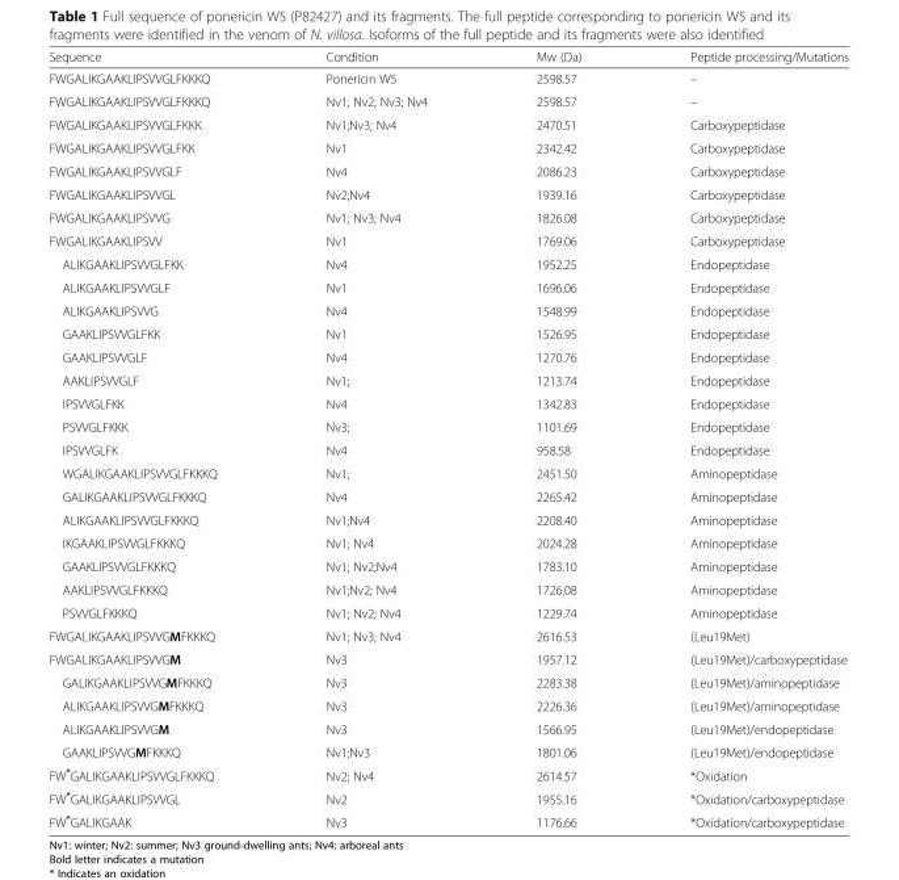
<table><thead><tr><td>Sequence</td><td>Condition</td><td>Mw (Da)</td><td>Peptide processing/Mutations</td></tr></thead><tbody><tr><td>FWGALIKGAAKLIPSVVGLFKKKQ</td><td>Ponericin W5</td><td>2598.57</td><td>–</td></tr><tr><td>FWGALIKGAAKLIPSVVGLFKKKQ</td><td>Nv1; Nv2; Nv3; Nv4</td><td>2598.57</td><td>–</td></tr><tr><td>FWGALIKGAAKLIPSVVGLFKKK</td><td>Nv1;Nv3; Nv4</td><td>2470.51</td><td>Carboxypeptidase</td></tr><tr><td>FWGALIKGAAKLIPSVVGLFKK</td><td>Nv1</td><td>2342.42</td><td>Carboxypeptidase</td></tr><tr><td>FWGALIKGAAKLIPSVVGLF</td><td>Nv4</td><td>2086.23</td><td>Carboxypeptidase</td></tr><tr><td>FWGALIKGAAKLIPSVVGL</td><td>Nv2;Nv4</td><td>1939.16</td><td>Carboxypeptidase</td></tr><tr><td>FWGALIKGAAKLIPSVVG</td><td>Nv1; Nv3; Nv4</td><td>1826.08</td><td>Carboxypeptidase</td></tr><tr><td>FWGALIKGAAKLIPSVV</td><td>Nv1</td><td>1769.06</td><td>Carboxypeptidase</td></tr><tr><td>ALIKGAAKLIPSVVGLFKK</td><td>Nv4</td><td>1952.25</td><td>Endopeptidase</td></tr><tr><td>ALIKGAAKLIPSVVGLF</td><td>Nv1</td><td>1696.06</td><td>Endopeptidase</td></tr><tr><td>ALIKGAAKLIPSVVG</td><td>Nv4</td><td>1548.99</td><td>Endopeptidase</td></tr><tr><td>GAAKLIPSVVGLFKK</td><td>Nv1</td><td>1526.95</td><td>Endopeptidase</td></tr><tr><td>GAAKLIPSVVGLF</td><td>Nv4</td><td>1270.76</td><td>Endopeptidase</td></tr><tr><td>AAKLIPSVVGLF</td><td>Nv1;</td><td>1213.74</td><td>Endopeptidase</td></tr><tr><td>IPSVVGLFKK</td><td>Nv4</td><td>1342.83</td><td>Endopeptidase</td></tr><tr><td>PSVVGLFKKK</td><td>Nv3;</td><td>1101.69</td><td>Endopeptidase</td></tr><tr><td>IPSVVGLFK</td><td>Nv4</td><td>958.58</td><td>Endopeptidase</td></tr><tr><td>WGALIKGAAKLIPSVVGLFKKKQ</td><td>Nv1;</td><td>2451.50</td><td>Aminopeptidase</td></tr><tr><td>GALIKGAAKLIPSVVGLFKKKQ</td><td>Nv4</td><td>2265.42</td><td>Aminopeptidase</td></tr><tr><td>ALIKGAAKLIPSVVGLFKKKQ</td><td>Nv1;Nv4</td><td>2208.40</td><td>Aminopeptidase</td></tr><tr><td>IKGAAKLIPSVVGLFKKKQ</td><td>Nv1; Nv4</td><td>2024.28</td><td>Aminopeptidase</td></tr><tr><td>GAAKLIPSVVGLFKKKQ</td><td>Nv1; Nv2;Nv4</td><td>1783.10</td><td>Aminopeptidase</td></tr><tr><td>AAKLIPSVVGLFKKKQ</td><td>Nv1;Nv2; Nv4</td><td>1726.08</td><td>Aminopeptidase</td></tr><tr><td>PSVVGLFKKKQ</td><td>Nv1; Nv2; Nv4</td><td>1229.74</td><td>Aminopeptidase</td></tr><tr><td>FWGALIKGAAKLIPSVVGMFKKKQ</td><td>Nv1; Nv3; Nv4</td><td>2616.53</td><td>(Leu19Met)</td></tr><tr><td>FWGALIKGAAKLIPSVVGM</td><td>Nv3</td><td>1957.12</td><td>(Leu19Met)/carboxypeptidase</td></tr><tr><td>GALIKGAAKLIPSVVGMFKKKQ</td><td>Nv3</td><td>2283.38</td><td>(Leu19Met)/aminopeptidase</td></tr><tr><td>ALIKGAAKLIPSVVGMFKKKQ</td><td>Nv3</td><td>2226.36</td><td>(Leu19Met)/aminopeptidase</td></tr><tr><td>ALIKGAAKLIPSVVGM</td><td>Nv3</td><td>1566.95</td><td>(Leu19Met)/endopeptidase</td></tr><tr><td>GAAKLIPSVVGMFKKKQ</td><td>Nv1;Nv3</td><td>1801.06</td><td>(Leu19Met)/endopeptidase</td></tr><tr><td>FW*GALIKGAAKLIPSVVGLFKKKQ</td><td>Nv2; Nv4</td><td>2614.57</td><td>*Oxidation</td></tr><tr><td>FW*GALIKGAAKLIPSVVGL</td><td>Nv2</td><td>1955.16</td><td>*Oxidation/carboxypeptidase</td></tr><tr><td>FW*GALIKGAAK</td><td>Nv3</td><td>1176.66</td><td>*Oxidation/carboxypeptidase</td></tr></tbody></table>